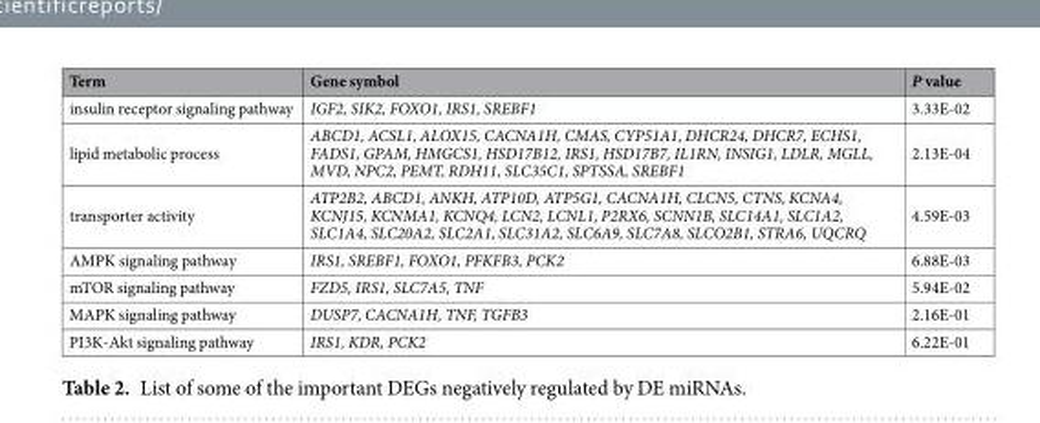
<table><thead><tr><td>Term</td><td>Gene symbol</td><td>P value</td></tr></thead><tbody><tr><td>insulin receptor signaling pathway</td><td>IGF2, SIK2, FOXO1, IRS1, SREBF1</td><td>3.33E-02</td></tr><tr><td>lipid metabolic process</td><td>ABCD1, ACSL1, ALOX15, CACNA1H, CMAS, CYP51A1, DHCR24, DHCR7, ECHS1, FADS1, GPAM, HMGCS1, HSD17B12, IRS1, HSD17B7, IL1RN, INSIG1, LDLR, MGLL, MVD, NPC2, PEMT, RDH11, SLC35C1, SPTSSA, SREBF1</td><td>2.13E-04</td></tr><tr><td>transporter activity</td><td>ATP2B2, ABCD1, ANKH, ATP10D, ATP5G1, CACNA1H, CLCN5, CTNS, KCNA4, KCNJ15, KCNMA1, KCNQ4, LCN2, LCNL1, P2RX6, SCNN1B, SLC14A1, SLC1A2, SLC1A4, SLC20A2, SLC2A1, SLC31A2, SLC6A9, SLC7A8, SLCO2B1, STRA6, UQCRQ</td><td>4.59E-03</td></tr><tr><td>AMPK signaling pathway</td><td>IRS1, SREBF1, FOXO1, PFKFB3, PCK2</td><td>6.88E-03</td></tr><tr><td>mTOR signaling pathway</td><td>FZD5, IRS1, SLC7A5, TNF</td><td>5.94E-02</td></tr><tr><td>MAPK signaling pathway</td><td>DUSP7, CACNA1H, TNF, TGFB3</td><td>2.16E-01</td></tr><tr><td>PI3K-Akt signaling pathway</td><td>IRS1, KDR, PCK2</td><td>6.22E-01</td></tr></tbody></table>